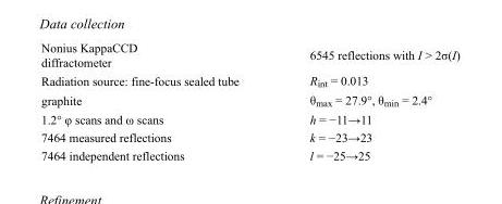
<table><tbody><tr><td>Nonius KappaCCD diffractometer</td><td>6545 reflections with I &gt; 2σ(I)</td></tr><tr><td>Radiation source: fine-focus sealed tube</td><td>R<sub>int</sub> = 0.013</td></tr><tr><td>graphite</td><td>θ<sub>max</sub> = 27.9°, θ<sub>min</sub> = 2.4°</td></tr><tr><td>1.2° φ scans and ω scans</td><td>h = −11→11</td></tr><tr><td>7464 measured reflections</td><td>k = −23→23</td></tr><tr><td>7464 independent reflections</td><td>l = −25→25</td></tr></tbody></table>